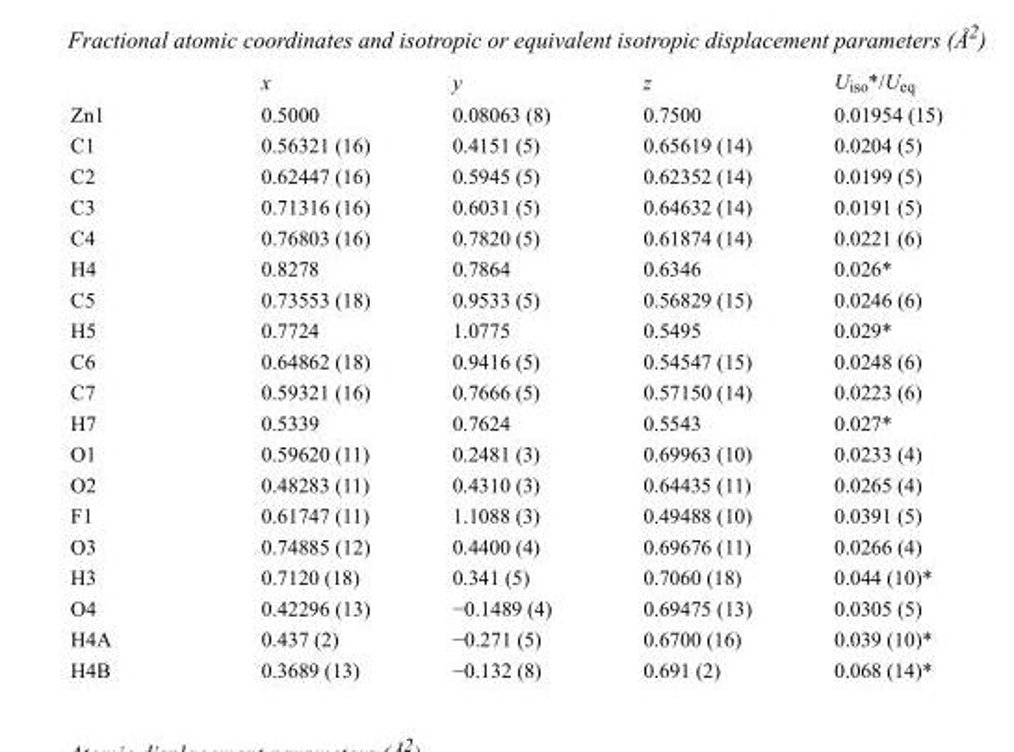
<table><thead><tr><td></td><td>x</td><td>y</td><td>z</td><td>U<sub>iso</sub>*/U<sub>eq</sub></td></tr></thead><tbody><tr><td>Zn1</td><td>0.5000</td><td>0.08063 (8)</td><td>0.7500</td><td>0.01954 (15)</td></tr><tr><td>C1</td><td>0.56321 (16)</td><td>0.4151 (5)</td><td>0.65619 (14)</td><td>0.0204 (5)</td></tr><tr><td>C2</td><td>0.62447 (16)</td><td>0.5945 (5)</td><td>0.62352 (14)</td><td>0.0199 (5)</td></tr><tr><td>C3</td><td>0.71316 (16)</td><td>0.6031 (5)</td><td>0.64632 (14)</td><td>0.0191 (5)</td></tr><tr><td>C4</td><td>0.76803 (16)</td><td>0.7820 (5)</td><td>0.61874 (14)</td><td>0.0221 (6)</td></tr><tr><td>H4</td><td>0.8278</td><td>0.7864</td><td>0.6346</td><td>0.026*</td></tr><tr><td>C5</td><td>0.73553 (18)</td><td>0.9533 (5)</td><td>0.56829 (15)</td><td>0.0246 (6)</td></tr><tr><td>H5</td><td>0.7724</td><td>1.0775</td><td>0.5495</td><td>0.029*</td></tr><tr><td>C6</td><td>0.64862 (18)</td><td>0.9416 (5)</td><td>0.54547 (15)</td><td>0.0248 (6)</td></tr><tr><td>C7</td><td>0.59321 (16)</td><td>0.7666 (5)</td><td>0.57150 (14)</td><td>0.0223 (6)</td></tr><tr><td>H7</td><td>0.5339</td><td>0.7624</td><td>0.5543</td><td>0.027*</td></tr><tr><td>O1</td><td>0.59620 (11)</td><td>0.2481 (3)</td><td>0.69963 (10)</td><td>0.0233 (4)</td></tr><tr><td>O2</td><td>0.48283 (11)</td><td>0.4310 (3)</td><td>0.64435 (11)</td><td>0.0265 (4)</td></tr><tr><td>F1</td><td>0.61747 (11)</td><td>1.1088 (3)</td><td>0.49488 (10)</td><td>0.0391 (5)</td></tr><tr><td>O3</td><td>0.74885 (12)</td><td>0.4400 (4)</td><td>0.69676 (11)</td><td>0.0266 (4)</td></tr><tr><td>H3</td><td>0.7120 (18)</td><td>0.341 (5)</td><td>0.7060 (18)</td><td>0.044 (10)*</td></tr><tr><td>O4</td><td>0.42296 (13)</td><td>−0.1489 (4)</td><td>0.69475 (13)</td><td>0.0305 (5)</td></tr><tr><td>H4A</td><td>0.437 (2)</td><td>−0.271 (5)</td><td>0.6700 (16)</td><td>0.039 (10)*</td></tr><tr><td>H4B</td><td>0.3689 (13)</td><td>−0.132 (8)</td><td>0.691 (2)</td><td>0.068 (14)*</td></tr></tbody></table>